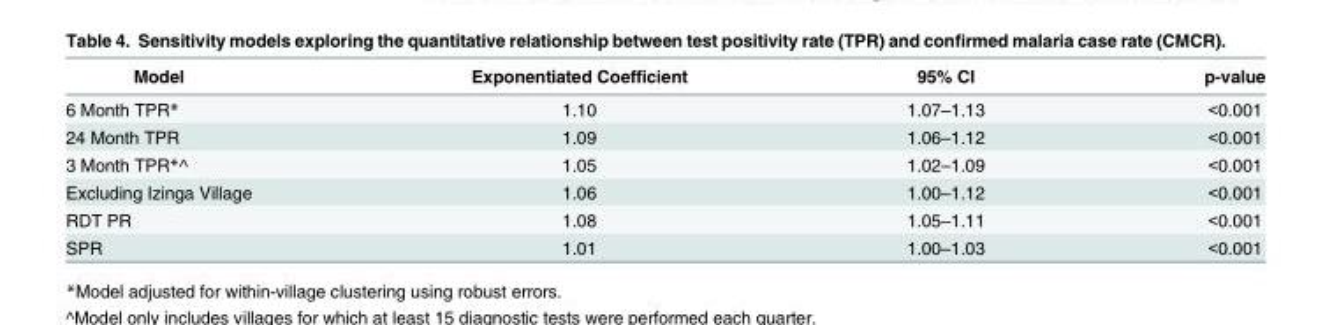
<table><thead><tr><td>Model</td><td>Exponentiated Coefficient</td><td>95% CI</td><td>p-value</td></tr></thead><tbody><tr><td>6 Month TPR*</td><td>1.10</td><td>1.07–1.13</td><td>&lt;0.001</td></tr><tr><td>24 Month TPR</td><td>1.09</td><td>1.06–1.12</td><td>&lt;0.001</td></tr><tr><td>3 Month TPR*^</td><td>1.05</td><td>1.02–1.09</td><td>&lt;0.001</td></tr><tr><td>Excluding Izinga Village</td><td>1.06</td><td>1.00–1.12</td><td>&lt;0.001</td></tr><tr><td>RDT PR</td><td>1.08</td><td>1.05–1.11</td><td>&lt;0.001</td></tr><tr><td>SPR</td><td>1.01</td><td>1.00–1.03</td><td>&lt;0.001</td></tr></tbody></table>